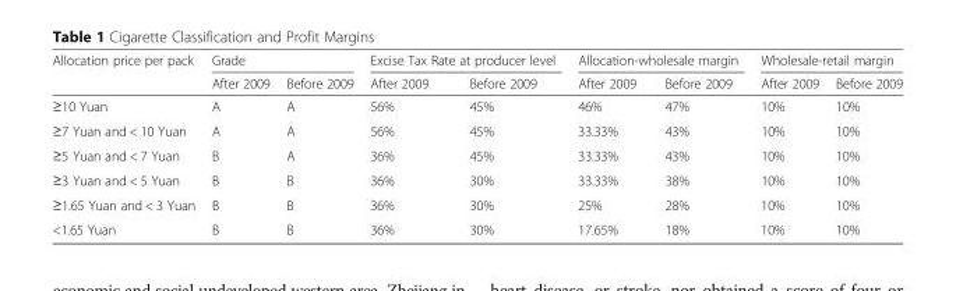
<table><thead><tr><td rowspan="2">Allocation price per pack</td><td colspan="2">Grade</td><td colspan="2">Excise Tax Rate at producer level</td><td colspan="2">Allocation-wholesale margin</td><td colspan="2">Wholesale-retail margin</td></tr><tr><td>After 2009</td><td>Before 2009</td><td>After 2009</td><td>Before 2009</td><td>After 2009</td><td>Before 2009</td><td>After 2009</td><td>Before 2009</td></tr></thead><tbody><tr><td>≥10 Yuan</td><td>A</td><td>A</td><td>56%</td><td>45%</td><td>46%</td><td>47%</td><td>10%</td><td>10%</td></tr><tr><td>≥7 Yuan and &lt; 10 Yuan</td><td>A</td><td>A</td><td>56%</td><td>45%</td><td>33.33%</td><td>43%</td><td>10%</td><td>10%</td></tr><tr><td>≥5 Yuan and &lt; 7 Yuan</td><td>B</td><td>A</td><td>36%</td><td>45%</td><td>33.33%</td><td>43%</td><td>10%</td><td>10%</td></tr><tr><td>≥3 Yuan and &lt; 5 Yuan</td><td>B</td><td>B</td><td>36%</td><td>30%</td><td>33.33%</td><td>38%</td><td>10%</td><td>10%</td></tr><tr><td>≥1.65 Yuan and &lt; 3 Yuan</td><td>B</td><td>B</td><td>36%</td><td>30%</td><td>25%</td><td>28%</td><td>10%</td><td>10%</td></tr><tr><td>&lt;1.65 Yuan</td><td>B</td><td>B</td><td>36%</td><td>30%</td><td>17.65%</td><td>18%</td><td>10%</td><td>10%</td></tr></tbody></table>